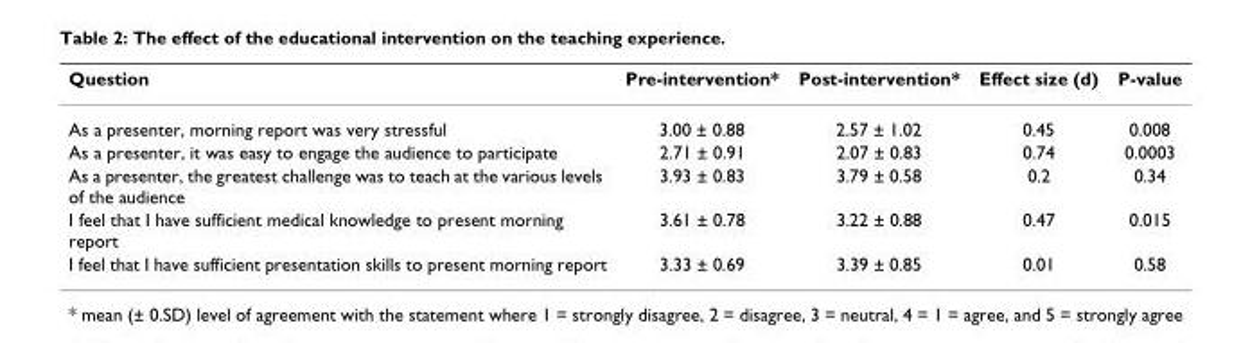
<table><thead><tr><td>Question</td><td>Pre-intervention*</td><td>Post-intervention*</td><td>Effect size (d)</td><td>P-value</td></tr></thead><tbody><tr><td>As a presenter, morning report was very stressful</td><td>3.00 ± 0.88</td><td>2.57 ± 1.02</td><td>0.45</td><td>0.008</td></tr><tr><td>As a presenter, it was easy to engage the audience to participate</td><td>2.71 ± 0.91</td><td>2.07 ± 0.83</td><td>0.74</td><td>0.0003</td></tr><tr><td>As a presenter, the greatest challenge was to teach at the various levels of the audience</td><td>3.93 ± 0.83</td><td>3.79 ± 0.58</td><td>0.2</td><td>0.34</td></tr><tr><td>I feel that I have sufficient medical knowledge to present morning report</td><td>3.61 ± 0.78</td><td>3.22 ± 0.88</td><td>0.47</td><td>0.015</td></tr><tr><td>I feel that I have sufficient presentation skills to present morning report</td><td>3.33 ± 0.69</td><td>3.39 ± 0.85</td><td>0.01</td><td>0.58</td></tr></tbody></table>